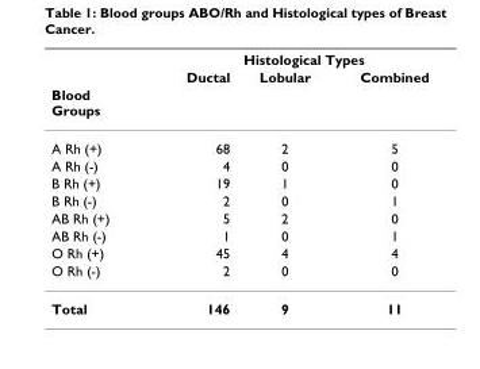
<table><thead><tr><td rowspan="3">Blood Groups</td><td colspan="3">Histological Types</td></tr><tr><td rowspan="2">Ductal</td><td rowspan="2">Lobular</td><td rowspan="2">Combined</td></tr><tr></tr></thead><tbody><tr><td>A Rh (+)</td><td>68</td><td>2</td><td>5</td></tr><tr><td>A Rh (-)</td><td>4</td><td>0</td><td>0</td></tr><tr><td>B Rh (+)</td><td>19</td><td>1</td><td>0</td></tr><tr><td>B Rh (-)</td><td>2</td><td>0</td><td>1</td></tr><tr><td>AB Rh (+)</td><td>5</td><td>2</td><td>0</td></tr><tr><td>AB Rh (-)</td><td>1</td><td>0</td><td>1</td></tr><tr><td>O Rh (+)</td><td>45</td><td>4</td><td>4</td></tr><tr><td>O Rh (-)</td><td>2</td><td>0</td><td>0</td></tr><tr><td>Total</td><td>146</td><td>9</td><td>11</td></tr></tbody></table>